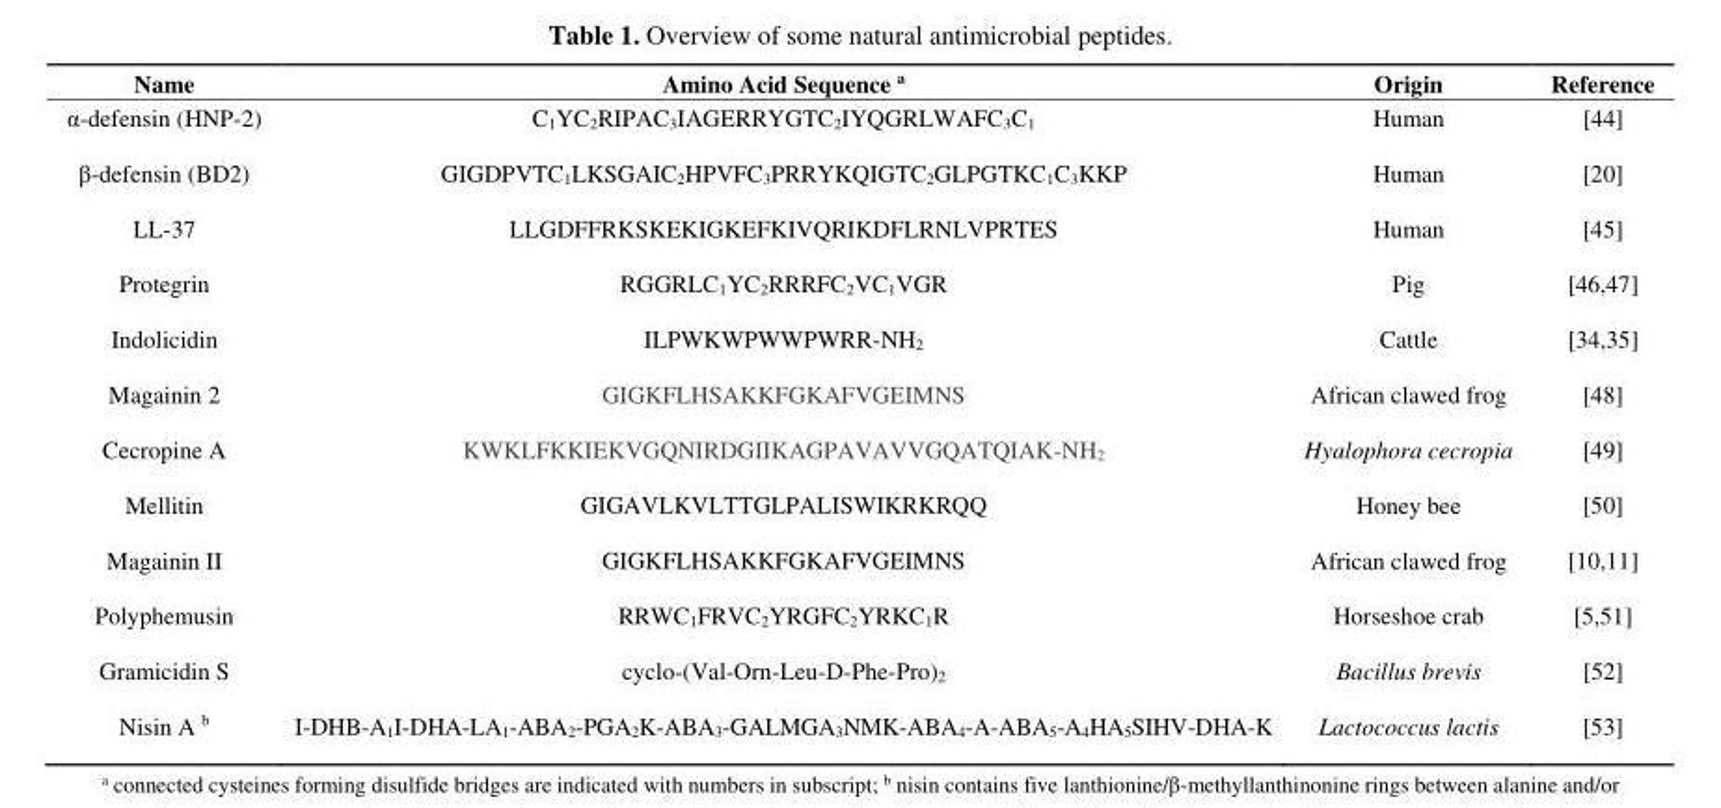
<table><thead><tr><td>Name</td><td>Amino Acid Sequence <sup>a</sup></td><td>Origin</td><td>Reference</td></tr></thead><tbody><tr><td>α-defensin (HNP-2)</td><td>C<sub>1</sub>YC<sub>2</sub>RIPAC<sub>3</sub>IAGERRYGTC<sub>2</sub>IYQGRLWAFC<sub>3</sub>C<sub>1</sub></td><td>Human</td><td>[44]</td></tr><tr><td>β-defensin (BD2)</td><td>GIGDPVTC<sub>1</sub>LKSGAIC<sub>2</sub>HPVFC<sub>3</sub>PRRYKQIGTC<sub>2</sub>GLPGTKC<sub>1</sub>C<sub>3</sub>KKP</td><td>Human</td><td>[20]</td></tr><tr><td>LL-37</td><td>LLGDFFRKSKEKIGKEFKIVQRIKDFLRNLVPRTES</td><td>Human</td><td>[45]</td></tr><tr><td>Protegrin</td><td>RGGRLC<sub>1</sub>YC<sub>2</sub>RRRFC<sub>2</sub>VC<sub>1</sub>VGR</td><td>Pig</td><td>[46,47]</td></tr><tr><td>Indolicidin</td><td>ILPWKWPWWPWRR-NH<sub>2</sub></td><td>Cattle</td><td>[34,35]</td></tr><tr><td>Magainin 2</td><td>GIGKFLHSAKKFGKAFVGEIMNS</td><td>African clawed frog</td><td>[48]</td></tr><tr><td>Cecropine A</td><td>KWKLFKKIEKVGQNIRDGIIKAGPAVAVVGQATQIAK-NH<sub>2</sub></td><td>Hyalophora cecropia</td><td>[49]</td></tr><tr><td>Mellitin</td><td>GIGAVLKVLTTGLPALISWIKRKRQQ</td><td>Honey bee</td><td>[50]</td></tr><tr><td>Magainin II</td><td>GIGKFLHSAKKFGKAFVGEIMNS</td><td>African clawed frog</td><td>[10,11]</td></tr><tr><td>Polyphemusin</td><td>RRWC<sub>1</sub>FRVC<sub>2</sub>YRGFC<sub>2</sub>YRKC<sub>1</sub>R</td><td>Horseshoe crab</td><td>[5,51]</td></tr><tr><td>Gramicidin S</td><td>cyclo-(Val-Orn-Leu-D-Phe-Pro)<sub>2</sub></td><td>Bacillus brevis</td><td>[52]</td></tr><tr><td>Nisin A <sup>b</sup></td><td>I-DHB-A<sub>1</sub>I-DHA-LA<sub>1</sub>-ABA<sub>2</sub>-PGA<sub>2</sub>K-ABA<sub>3</sub>-GALMGA<sub>3</sub>NMK-ABA<sub>4</sub>-A-ABA<sub>5</sub>-A<sub>4</sub>HA<sub>5</sub>SIHV-DHA-K</td><td>Lactococcus lactis</td><td>[53]</td></tr></tbody></table>